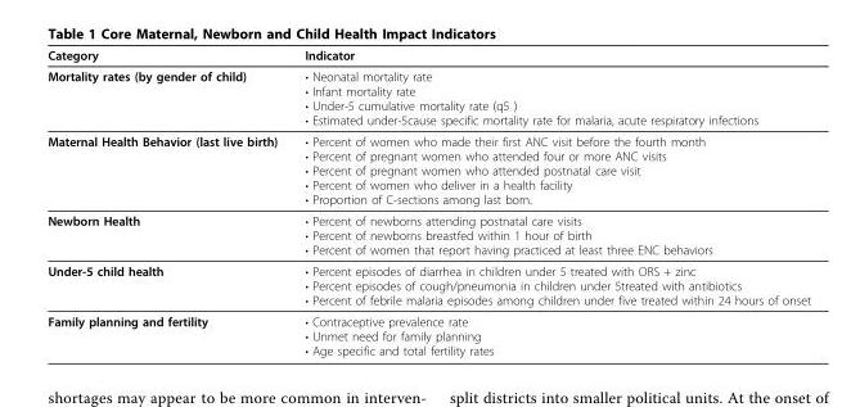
<table><thead><tr><td>Category</td><td>Indicator</td></tr></thead><tbody><tr><td>Mortality rates (by gender of child)</td><td>• Neonatal mortality rate • Infant mortality rate • Under-5 cumulative mortality rate (q5 ) • Estimated under-5cause specific mortality rate for malaria, acute respiratory infections</td></tr><tr><td>Maternal Health Behavior (last live birth)</td><td>• Percent of women who made their first ANC visit before the fourth month • Percent of pregnant women who attended four or more ANC visits • Percent of pregnant women who attended postnatal care visit • Percent of women who deliver in a health facility • Proportion of C-sections among last born.</td></tr><tr><td>Newborn Health</td><td>• Percent of newborns attending postnatal care visits • Percent of newborns breastfed within 1 hour of birth • Percent of women that report having practiced at least three ENC behaviors</td></tr><tr><td>Under-5 child health</td><td>• Percent episodes of diarrhea in children under 5 treated with ORS + zinc • Percent episodes of cough/pneumonia in children under 5treated with antibiotics • Percent of febrile malaria episodes among children under five treated within 24 hours of onset</td></tr><tr><td>Family planning and fertility</td><td>• Contraceptive prevalence rate • Unmet need for family planning • Age specific and total fertility rates</td></tr></tbody></table>